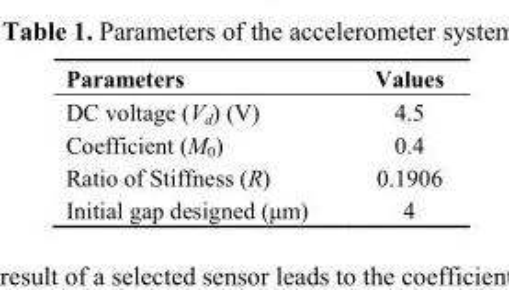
<table><thead><tr><td>Parameters</td><td>Values</td></tr></thead><tbody><tr><td>DC voltage (V<sub>d</sub>) (V)</td><td>4.5</td></tr><tr><td>Coefficient (M<sub>0</sub>)</td><td>0.4</td></tr><tr><td>Ratio of Stiffness (R)</td><td>0.1906</td></tr><tr><td>Initial gap designed (μm)</td><td>4</td></tr></tbody></table>